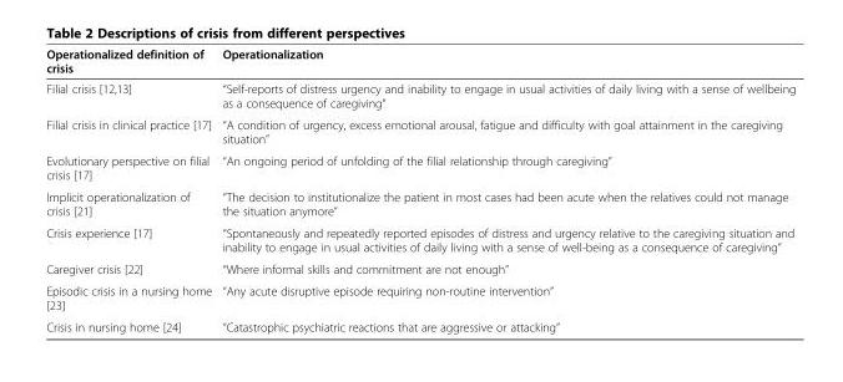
<table><thead><tr><td>Operationalized definition of crisis</td><td>Operationalization</td></tr></thead><tbody><tr><td>Filial crisis [12,13]</td><td>“Self-reports of distress urgency and inability to engage in usual activities of daily living with a sense of wellbeing as a consequence of caregiving”</td></tr><tr><td>Filial crisis in clinical practice [17]</td><td>“A condition of urgency, excess emotional arousal, fatigue and difficulty with goal attainment in the caregiving situation”</td></tr><tr><td>Evolutionary perspective on filial crisis [17]</td><td>“An ongoing period of unfolding of the filial relationship through caregiving”</td></tr><tr><td>Implicit operationalization of crisis [21]</td><td>“The decision to institutionalize the patient in most cases had been acute when the relatives could not manage the situation anymore”</td></tr><tr><td>Crisis experience [17]</td><td>“Spontaneously and repeatedly reported episodes of distress and urgency relative to the caregiving situation and inability to engage in usual activities of daily living with a sense of well-being as a consequence of caregiving”</td></tr><tr><td>Caregiver crisis [22]</td><td>“Where informal skills and commitment are not enough”</td></tr><tr><td>Episodic crisis in a nursing home [23]</td><td>“Any acute disruptive episode requiring non-routine intervention”</td></tr><tr><td>Crisis in nursing home [24]</td><td>“Catastrophic psychiatric reactions that are aggressive or attacking”</td></tr></tbody></table>